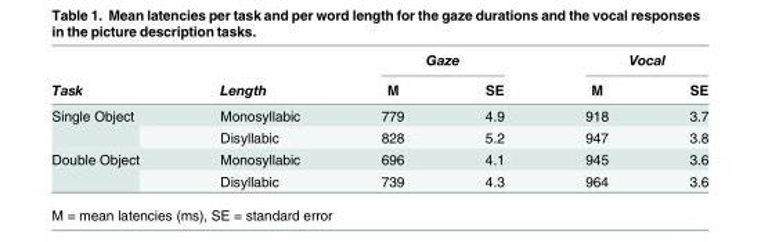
<table><thead><tr><td rowspan="2">Task</td><td rowspan="2">Length</td><td colspan="2">Gaze</td><td colspan="2">Vocal</td></tr><tr><td>M</td><td>SE</td><td>M</td><td>SE</td></tr></thead><tbody><tr><td rowspan="2">Single Object</td><td>Monosyllabic</td><td>779</td><td>4.9</td><td>918</td><td>3.7</td></tr><tr><td>Disyllabic</td><td>828</td><td>5.2</td><td>947</td><td>3.8</td></tr><tr><td rowspan="2">Double Object</td><td>Monosyllabic</td><td>696</td><td>4.1</td><td>945</td><td>3.6</td></tr><tr><td>Disyllabic</td><td>739</td><td>4.3</td><td>964</td><td>3.6</td></tr></tbody></table>